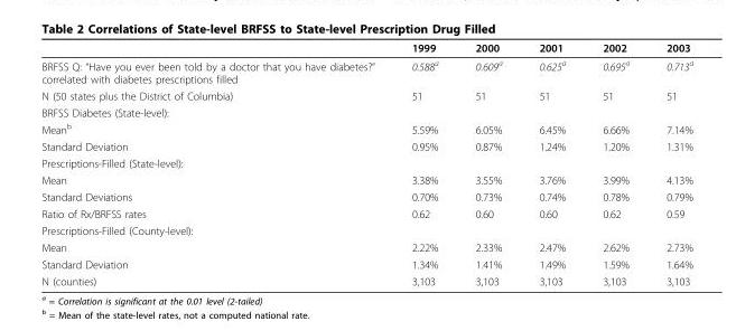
<table><thead><tr><td></td><td>1999</td><td>2000</td><td>2001</td><td>2002</td><td>2003</td></tr></thead><tbody><tr><td>BRFSS Q: “Have you ever been told by a doctor that you have diabetes?” correlated with diabetes prescriptions filled</td><td>0.588<sup>a</sup></td><td>0.609<sup>a</sup></td><td>0.625<sup>a</sup></td><td>0.695<sup>a</sup></td><td>0.713<sup>a</sup></td></tr><tr><td>N (50 states plus the District of Columbia)</td><td>51</td><td>51</td><td>51</td><td>51</td><td>51</td></tr><tr><td colspan="6">BRFSS Diabetes (State-level):</td></tr><tr><td>Mean<sup>b</sup></td><td>5.59%</td><td>6.05%</td><td>6.45%</td><td>6.66%</td><td>7.14%</td></tr><tr><td>Standard Deviation</td><td>0.95%</td><td>0.87%</td><td>1.24%</td><td>1.20%</td><td>1.31%</td></tr><tr><td colspan="6">Prescriptions-Filled (State-level):</td></tr><tr><td>Mean</td><td>3.38%</td><td>3.55%</td><td>3.76%</td><td>3.99%</td><td>4.13%</td></tr><tr><td>Standard Deviations</td><td>0.70%</td><td>0.73%</td><td>0.74%</td><td>0.78%</td><td>0.79%</td></tr><tr><td>Ratio of Rx/BRFSS rates</td><td>0.62</td><td>0.60</td><td>0.60</td><td>0.62</td><td>0.59</td></tr><tr><td colspan="6">Prescriptions-Filled (County-level):</td></tr><tr><td>Mean</td><td>2.22%</td><td>2.33%</td><td>2.47%</td><td>2.62%</td><td>2.73%</td></tr><tr><td>Standard Deviation</td><td>1.34%</td><td>1.41%</td><td>1.49%</td><td>1.59%</td><td>1.64%</td></tr><tr><td>N (counties)</td><td>3,103</td><td>3,103</td><td>3,103</td><td>3,103</td><td>3,103</td></tr></tbody></table>